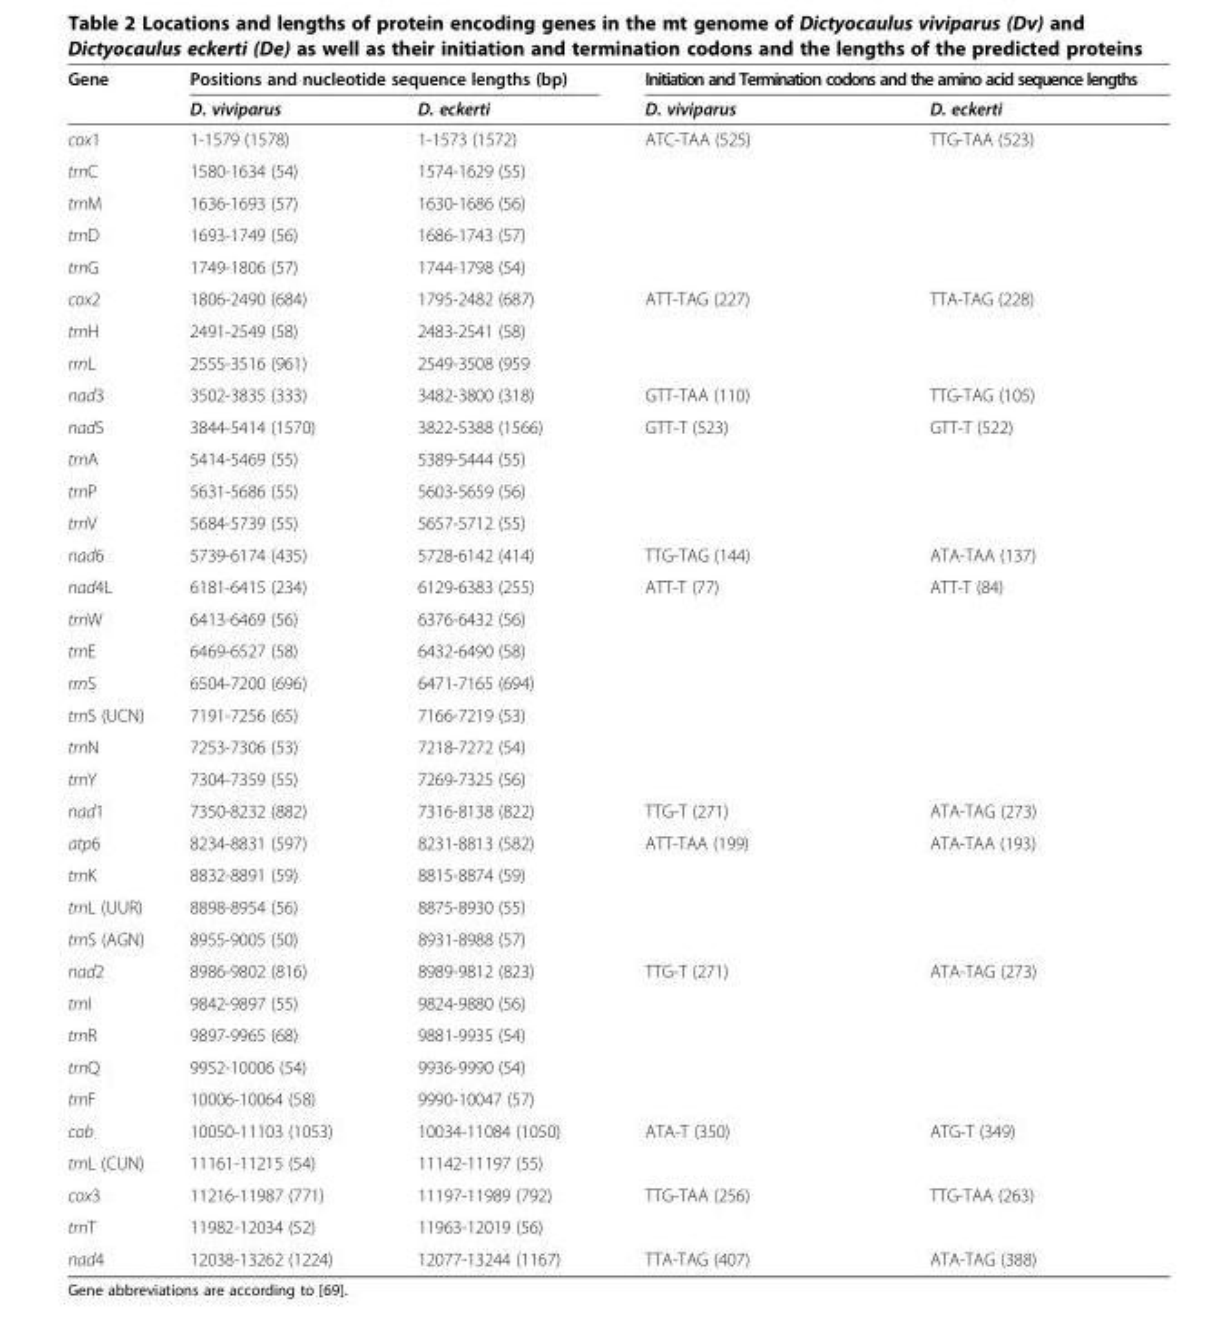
<table><thead><tr><td rowspan="2">Gene</td><td colspan="2">Positions and nucleotide sequence lengths (bp)</td><td colspan="2">Initiation and Termination codons and the amino acid sequence lengths</td></tr><tr><td>D. viviparus</td><td>D. eckerti</td><td>D. viviparus</td><td>D. eckerti</td></tr></thead><tbody><tr><td>cox1</td><td>1-1579 (1578)</td><td>1-1573 (1572)</td><td>ATC-TAA (525)</td><td>TTG-TAA (523)</td></tr><tr><td>trnC</td><td>1580-1634 (54)</td><td>1574-1629 (55)</td><td></td><td></td></tr><tr><td>trnM</td><td>1636-1693 (57)</td><td>1630-1686 (56)</td><td></td><td></td></tr><tr><td>trnD</td><td>1693-1749 (56)</td><td>1686-1743 (57)</td><td></td><td></td></tr><tr><td>trnG</td><td>1749-1806 (57)</td><td>1744-1798 (54)</td><td></td><td></td></tr><tr><td>cox2</td><td>1806-2490 (684)</td><td>1795-2482 (687)</td><td>ATT-TAG (227)</td><td>TTA-TAG (228)</td></tr><tr><td>trnH</td><td>2491-2549 (58)</td><td>2483-2541 (58)</td><td></td><td></td></tr><tr><td>rrnL</td><td>2555-3516 (961)</td><td>2549-3508 (959</td><td></td><td></td></tr><tr><td>nad3</td><td>3502-3835 (333)</td><td>3482-3800 (318)</td><td>GTT-TAA (110)</td><td>TTG-TAG (105)</td></tr><tr><td>nad5</td><td>3844-5414 (1570)</td><td>3822-5388 (1566)</td><td>GTT-T (523)</td><td>GTT-T (522)</td></tr><tr><td>trnA</td><td>5414-5469 (55)</td><td>5389-5444 (55)</td><td></td><td></td></tr><tr><td>trnP</td><td>5631-5686 (55)</td><td>5603-5659 (56)</td><td></td><td></td></tr><tr><td>trnV</td><td>5684-5739 (55)</td><td>5657-5712 (55)</td><td></td><td></td></tr><tr><td>nad6</td><td>5739-6174 (435)</td><td>5728-6142 (414)</td><td>TTG-TAG (144)</td><td>ATA-TAA (137)</td></tr><tr><td>nad4L</td><td>6181-6415 (234)</td><td>6129-6383 (255)</td><td>ATT-T (77)</td><td>ATT-T (84)</td></tr><tr><td>trnW</td><td>6413-6469 (56)</td><td>6376-6432 (56)</td><td></td><td></td></tr><tr><td>trnE</td><td>6469-6527 (58)</td><td>6432-6490 (58)</td><td></td><td></td></tr><tr><td>rrnS</td><td>6504-7200 (696)</td><td>6471-7165 (694)</td><td></td><td></td></tr><tr><td>trnS (UCN)</td><td>7191-7256 (65)</td><td>7166-7219 (53)</td><td></td><td></td></tr><tr><td>trnN</td><td>7253-7306 (53)</td><td>7218-7272 (54)</td><td></td><td></td></tr><tr><td>trnY</td><td>7304-7359 (55)</td><td>7269-7325 (56)</td><td></td><td></td></tr><tr><td>nad1</td><td>7350-8232 (882)</td><td>7316-8138 (822)</td><td>TTG-T (271)</td><td>ATA-TAG (273)</td></tr><tr><td>atp6</td><td>8234-8831 (597)</td><td>8231-8813 (582)</td><td>ATT-TAA (199)</td><td>ATA-TAA (193)</td></tr><tr><td>trnK</td><td>8832-8891 (59)</td><td>8815-8874 (59)</td><td></td><td></td></tr><tr><td>trnL (UUR)</td><td>8898-8954 (56)</td><td>8875-8930 (55)</td><td></td><td></td></tr><tr><td>trnS (AGN)</td><td>8955-9005 (50)</td><td>8931-8988 (57)</td><td></td><td></td></tr><tr><td>nad2</td><td>8986-9802 (816)</td><td>8989-9812 (823)</td><td>TTG-T (271)</td><td>ATA-TAG (273)</td></tr><tr><td>trnI</td><td>9842-9897 (55)</td><td>9824-9880 (56)</td><td></td><td></td></tr><tr><td>trnR</td><td>9897-9965 (68)</td><td>9881-9935 (54)</td><td></td><td></td></tr><tr><td>trnQ</td><td>9952-10006 (54)</td><td>9936-9990 (54)</td><td></td><td></td></tr><tr><td>trnF</td><td>10006-10064 (58)</td><td>9990-10047 (57)</td><td></td><td></td></tr><tr><td>cob</td><td>10050-11103 (1053)</td><td>10034-11084 (1050)</td><td>ATA-T (350)</td><td>ATG-T (349)</td></tr><tr><td>trnL (CUN)</td><td>11161-11215 (54)</td><td>11142-11197 (55)</td><td></td><td></td></tr><tr><td>cox3</td><td>11216-11987 (771)</td><td>11197-11989 (792)</td><td>TTG-TAA (256)</td><td>TTG-TAA (263)</td></tr><tr><td>trnT</td><td>11982-12034 (52)</td><td>11963-12019 (56)</td><td></td><td></td></tr><tr><td>nad4</td><td>12038-13262 (1224)</td><td>12077-13244 (1167)</td><td>TTA-TAG (407)</td><td>ATA-TAG (388)</td></tr></tbody></table>